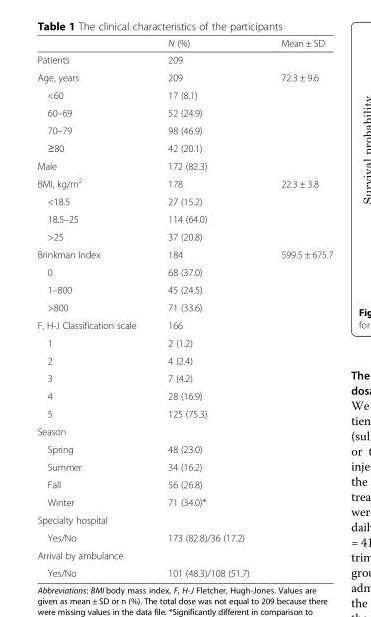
<table><thead><tr><td></td><td>N (%)</td><td>Mean ± SD</td></tr></thead><tbody><tr><td>Patients</td><td>209</td><td></td></tr><tr><td>Age, years</td><td>209</td><td>72.3 ± 9.6</td></tr><tr><td>&lt;60</td><td>17 (8.1)</td><td></td></tr><tr><td>60–69</td><td>52 (24.9)</td><td></td></tr><tr><td>70–79</td><td>98 (46.9)</td><td></td></tr><tr><td>≥80</td><td>42 (20.1)</td><td></td></tr><tr><td>Male</td><td>172 (82.3)</td><td></td></tr><tr><td>BMI, kg/m<sup>2</sup></td><td>178</td><td>22.3 ± 3.8</td></tr><tr><td>&lt;18.5</td><td>27 (15.2)</td><td></td></tr><tr><td>18.5–25</td><td>114 (64.0)</td><td></td></tr><tr><td>&gt;25</td><td>37 (20.8)</td><td></td></tr><tr><td>Brinkman Index</td><td>184</td><td>599.5 ± 675.7</td></tr><tr><td>0</td><td>68 (37.0)</td><td></td></tr><tr><td>1–800</td><td>45 (24.5)</td><td></td></tr><tr><td>&gt;800</td><td>71 (33.6)</td><td></td></tr><tr><td>F, H-J Classification scale</td><td>166</td><td></td></tr><tr><td>1</td><td>2 (1.2)</td><td></td></tr><tr><td>2</td><td>4 (2.4)</td><td></td></tr><tr><td>3</td><td>7 (4.2)</td><td></td></tr><tr><td>4</td><td>28 (16.9)</td><td></td></tr><tr><td>5</td><td>125 (75.3)</td><td></td></tr><tr><td colspan="3">Season</td></tr><tr><td>Spring</td><td>48 (23.0)</td><td></td></tr><tr><td>Summer</td><td>34 (16.2)</td><td></td></tr><tr><td>Fall</td><td>56 (26.8)</td><td></td></tr><tr><td>Winter</td><td>71 (34.0)*</td><td></td></tr><tr><td colspan="3">Specialty hospital</td></tr><tr><td>Yes/No</td><td>173 (82.8)/36 (17.2)</td><td></td></tr><tr><td colspan="3">Arrival by ambulance</td></tr><tr><td>Yes/No</td><td>101 (48.3)/108 (51.7)</td><td></td></tr></tbody></table>